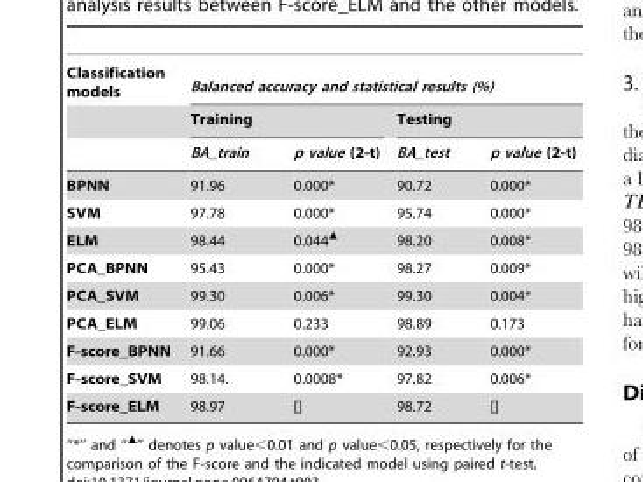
<table><thead><tr><td rowspan="3">Classification models</td><td colspan="4">Balanced accuracy and statistical results (%)</td></tr><tr><td colspan="2">Training</td><td colspan="2">Testing</td></tr><tr><td>BA_train</td><td>p value (2-t)</td><td>BA_test</td><td>p value (2-t)</td></tr></thead><tbody><tr><td>BPNN</td><td>91.96</td><td>0.000*</td><td>90.72</td><td>0.000*</td></tr><tr><td>SVM</td><td>97.78</td><td>0.000*</td><td>95.74</td><td>0.000*</td></tr><tr><td>ELM</td><td>98.44</td><td>0.044<sup>▴</sup></td><td>98.20</td><td>0.008*</td></tr><tr><td>PCA_BPNN</td><td>95.43</td><td>0.000*</td><td>98.27</td><td>0.009*</td></tr><tr><td>PCA_SVM</td><td>99.30</td><td>0.006*</td><td>99.30</td><td>0.004*</td></tr><tr><td>PCA_ELM</td><td>99.06</td><td>0.233</td><td>98.89</td><td>0.173</td></tr><tr><td>F-score_BPNN</td><td>91.66</td><td>0.000*</td><td>92.93</td><td>0.000*</td></tr><tr><td>F-score_SVM</td><td>98.14.</td><td>0.0008*</td><td>97.82</td><td>0.006*</td></tr><tr><td>F-score_ELM</td><td>98.97</td><td>[]</td><td>98.72</td><td>[]</td></tr></tbody></table>